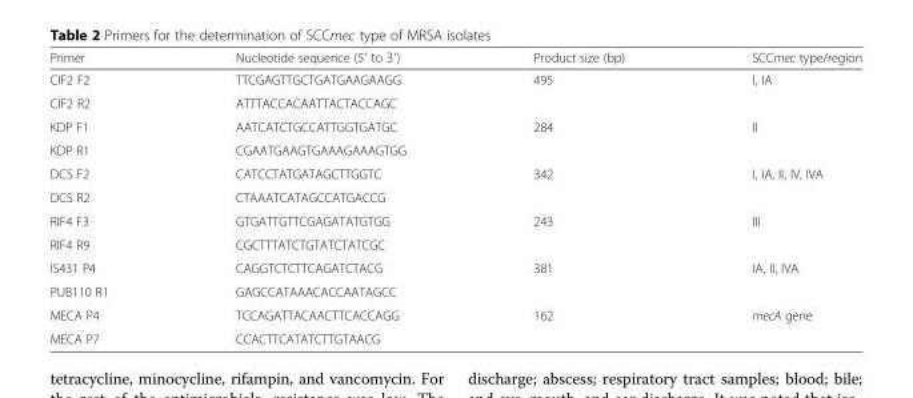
<table><thead><tr><td>Primer</td><td>Nucleotide sequence (5′ to 3′)</td><td>Product size (bp)</td><td>SCCmec type/region</td></tr></thead><tbody><tr><td>CIF2 F2</td><td>TTCGAGTTGCTGATGAAGAAGG</td><td rowspan="2">495</td><td rowspan="2">I, IA</td></tr><tr><td>CIF2 R2</td><td>ATTTACCACAATTACTACCAGC</td></tr><tr><td>KDP F1</td><td>AATCATCTGCCATTGGTGATGC</td><td rowspan="2">284</td><td rowspan="2">II</td></tr><tr><td>KDP R1</td><td>CGAATGAAGTGAAAGAAAGTGG</td></tr><tr><td>DCS F2</td><td>CATCCTATGATAGCTTGGTC</td><td rowspan="2">342</td><td rowspan="2">I, IA, II, IV, IVA</td></tr><tr><td>DCS R2</td><td>CTAAATCATAGCCATGACCG</td></tr><tr><td>RIF4 F3</td><td>GTGATTGTTCGAGATATGTGG</td><td rowspan="2">243</td><td rowspan="2">III</td></tr><tr><td>RIF4 R9</td><td>CGCTTTATCTGTATCTATCGC</td></tr><tr><td>IS431 P4</td><td>CAGGTCTCTTCAGATCTACG</td><td rowspan="2">381</td><td rowspan="2">IA, II, IVA</td></tr><tr><td>PUB110 R1</td><td>GAGCCATAAACACCAATAGCC</td></tr><tr><td>MECA P4</td><td>TCCAGATTACAACTTCACCAGG</td><td rowspan="2">162</td><td rowspan="2">mecA gene</td></tr><tr><td>MECA P7</td><td>CCACTTCATATCTTGTAACG</td></tr></tbody></table>